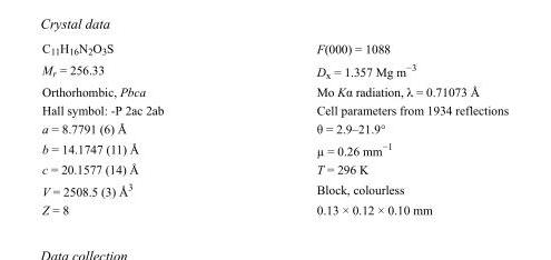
<table><tbody><tr><td>C<sub>11</sub>H<sub>16</sub>N<sub>2</sub>O<sub>3</sub>S</td><td>F(000) = 1088</td></tr><tr><td>M<sub>r</sub> = 256.33</td><td>D<sub>x</sub> = 1.357 Mg m<sup>−3</sup></td></tr><tr><td>Orthorhombic, Pbca</td><td>Mo Kα radiation, λ = 0.71073 Å</td></tr><tr><td>Hall symbol: -P 2ac 2ab</td><td>Cell parameters from 1934 reflections</td></tr><tr><td>a = 8.7791 (6) Å</td><td>θ = 2.9–21.9°</td></tr><tr><td>b = 14.1747 (11) Å</td><td>µ = 0.26 mm<sup>−1</sup></td></tr><tr><td>c = 20.1577 (14) Å</td><td>T = 296 K</td></tr><tr><td>V = 2508.5 (3) Å<sup>3</sup></td><td>Block, colourless</td></tr><tr><td>Z = 8</td><td>0.13 × 0.12 × 0.10 mm</td></tr></tbody></table>